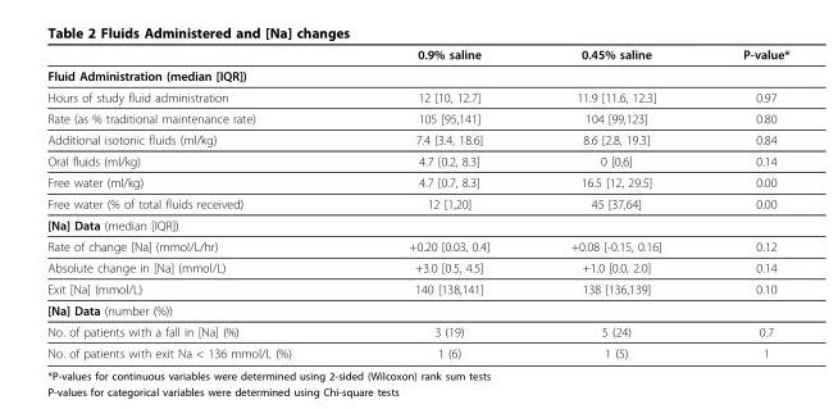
<table><thead><tr><td></td><td>0.9% saline</td><td>0.45% saline</td><td>P-value*</td></tr></thead><tbody><tr><td colspan="4">Fluid Administration (median [IQR])</td></tr><tr><td>Hours of study fluid administration</td><td>12 [10, 12.7]</td><td>11.9 [11.6, 12.3]</td><td>0.97</td></tr><tr><td>Rate (as % traditional maintenance rate)</td><td>105 [95,141]</td><td>104 [99,123]</td><td>0.80</td></tr><tr><td>Additional isotonic fluids (ml/kg)</td><td>7.4 [3.4, 18.6]</td><td>8.6 [2.8, 19.3]</td><td>0.84</td></tr><tr><td>Oral fluids (ml/kg)</td><td>4.7 [0.2, 8.3]</td><td>0 [0,6]</td><td>0.14</td></tr><tr><td>Free water (ml/kg)</td><td>4.7 [0.7, 8.3]</td><td>16.5 [12, 29.5]</td><td>0.00</td></tr><tr><td>Free water (% of total fluids received)</td><td>12 [1,20]</td><td>45 [37,64]</td><td>0.00</td></tr><tr><td colspan="4">[Na] Data (median [IQR])</td></tr><tr><td>Rate of change [Na] (mmol/L/hr)</td><td>+0.20 [0.03, 0.4]</td><td>+0.08 [-0.15, 0.16]</td><td>0.12</td></tr><tr><td>Absolute change in [Na] (mmol/L)</td><td>+3.0 [0.5, 4.5]</td><td>+1.0 [0.0, 2.0]</td><td>0.14</td></tr><tr><td>Exit [Na] (mmol/L)</td><td>140 [138,141]</td><td>138 [136,139]</td><td>0.10</td></tr><tr><td colspan="4">[Na] Data (number (%))</td></tr><tr><td>No. of patients with a fall in [Na] (%)</td><td>3 (19)</td><td>5 (24)</td><td>0.7</td></tr><tr><td>No. of patients with exit Na &lt; 136 mmol/L (%)</td><td>1 (6)</td><td>1 (5)</td><td>1</td></tr></tbody></table>